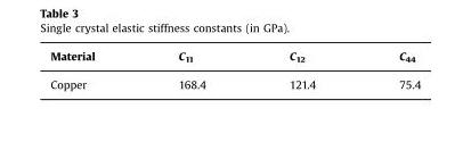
<table><thead><tr><td>Material</td><td>C<sub>11</sub></td><td>C<sub>12</sub></td><td>C<sub>44</sub></td></tr></thead><tbody><tr><td>Copper</td><td>168.4</td><td>121.4</td><td>75.4</td></tr></tbody></table>